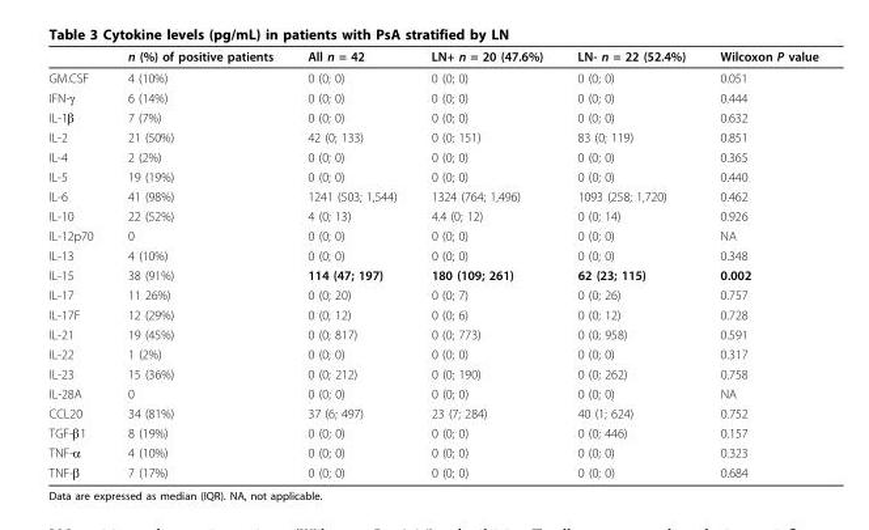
<table><thead><tr><td></td><td>n (%) of positive patients</td><td>All n = 42</td><td>LN+ n = 20 (47.6%)</td><td>LN- n = 22 (52.4%)</td><td>Wilcoxon P value</td></tr></thead><tbody><tr><td>GM.CSF</td><td>4 (10%)</td><td>0 (0; 0)</td><td>0 (0; 0)</td><td>0 (0; 0)</td><td>0.051</td></tr><tr><td>IFN-γ</td><td>6 (14%)</td><td>0 (0; 0)</td><td>0 (0; 0)</td><td>0 (0; 0)</td><td>0.444</td></tr><tr><td>IL-1β</td><td>7 (7%)</td><td>0 (0; 0)</td><td>0 (0; 0)</td><td>0 (0; 0)</td><td>0.632</td></tr><tr><td>IL-2</td><td>21 (50%)</td><td>42 (0; 133)</td><td>0 (0; 151)</td><td>83 (0; 119)</td><td>0.851</td></tr><tr><td>IL-4</td><td>2 (2%)</td><td>0 (0; 0)</td><td>0 (0; 0)</td><td>0 (0; 0)</td><td>0.365</td></tr><tr><td>IL-5</td><td>19 (19%)</td><td>0 (0; 0)</td><td>0 (0; 0)</td><td>0 (0; 0)</td><td>0.440</td></tr><tr><td>IL-6</td><td>41 (98%)</td><td>1241 (503; 1,544)</td><td>1324 (764; 1,496)</td><td>1093 (258; 1,720)</td><td>0.462</td></tr><tr><td>IL-10</td><td>22 (52%)</td><td>4 (0; 13)</td><td>4.4 (0; 12)</td><td>0 (0; 14)</td><td>0.926</td></tr><tr><td>IL-12p70</td><td>0</td><td>0 (0; 0)</td><td>0 (0; 0)</td><td>0 (0; 0)</td><td>NA</td></tr><tr><td>IL-13</td><td>4 (10%)</td><td>0 (0; 0)</td><td>0 (0; 0)</td><td>0 (0; 0)</td><td>0.348</td></tr><tr><td>IL-15</td><td>38 (91%)</td><td>114 (47; 197)</td><td>180 (109; 261)</td><td>62 (23; 115)</td><td>0.002</td></tr><tr><td>IL-17</td><td>11 26%)</td><td>0 (0; 20)</td><td>0 (0; 7)</td><td>0 (0; 26)</td><td>0.757</td></tr><tr><td>IL-17F</td><td>12 (29%)</td><td>0 (0; 12)</td><td>0 (0; 6)</td><td>0 (0; 12)</td><td>0.728</td></tr><tr><td>IL-21</td><td>19 (45%)</td><td>0 (0; 817)</td><td>0 (0; 773)</td><td>0 (0; 958)</td><td>0.591</td></tr><tr><td>IL-22</td><td>1 (2%)</td><td>0 (0; 0)</td><td>0 (0; 0)</td><td>0 (0; 0)</td><td>0.317</td></tr><tr><td>IL-23</td><td>15 (36%)</td><td>0 (0; 212)</td><td>0 (0; 190)</td><td>0 (0; 262)</td><td>0.758</td></tr><tr><td>IL-28A</td><td>0</td><td>0 (0; 0)</td><td>0 (0; 0)</td><td>0 (0; 0)</td><td>NA</td></tr><tr><td>CCL20</td><td>34 (81%)</td><td>37 (6; 497)</td><td>23 (7; 284)</td><td>40 (1; 624)</td><td>0.752</td></tr><tr><td>TGF-β1</td><td>8 (19%)</td><td>0 (0; 0)</td><td>0 (0; 0)</td><td>0 (0; 446)</td><td>0.157</td></tr><tr><td>TNF-α</td><td>4 (10%)</td><td>0 (0; 0)</td><td>0 (0; 0)</td><td>0 (0; 0)</td><td>0.323</td></tr><tr><td>TNF-β</td><td>7 (17%)</td><td>0 (0; 0)</td><td>0 (0; 0)</td><td>0 (0; 0)</td><td>0.684</td></tr></tbody></table>